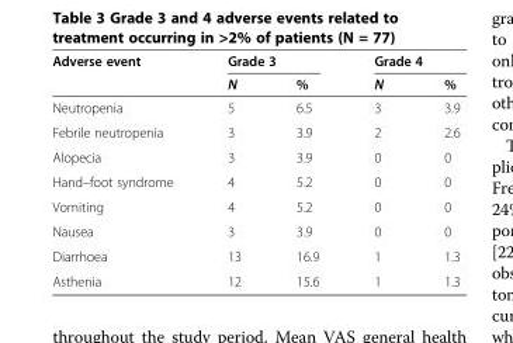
<table><thead><tr><td rowspan="2">Adverse event</td><td colspan="2">Grade 3</td><td colspan="2">Grade 4</td></tr><tr><td>N</td><td>%</td><td>N</td><td>%</td></tr></thead><tbody><tr><td>Neutropenia</td><td>5</td><td>6.5</td><td>3</td><td>3.9</td></tr><tr><td>Febrile neutropenia</td><td>3</td><td>3.9</td><td>2</td><td>2.6</td></tr><tr><td>Alopecia</td><td>3</td><td>3.9</td><td>0</td><td>0</td></tr><tr><td>Hand–foot syndrome</td><td>4</td><td>5.2</td><td>0</td><td>0</td></tr><tr><td>Vomiting</td><td>4</td><td>5.2</td><td>0</td><td>0</td></tr><tr><td>Nausea</td><td>3</td><td>3.9</td><td>0</td><td>0</td></tr><tr><td>Diarrhoea</td><td>13</td><td>16.9</td><td>1</td><td>1.3</td></tr><tr><td>Asthenia</td><td>12</td><td>15.6</td><td>1</td><td>1.3</td></tr></tbody></table>